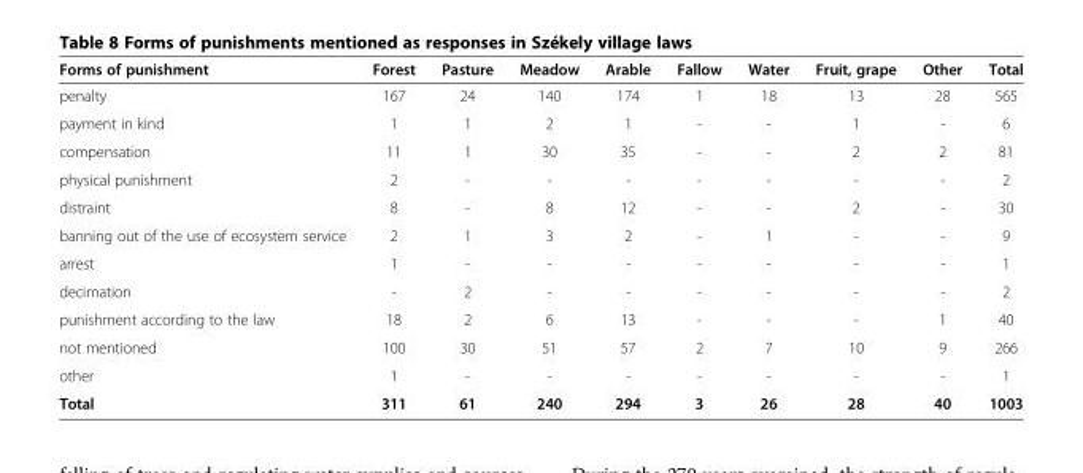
<table><thead><tr><td>Forms of punishment</td><td>Forest</td><td>Pasture</td><td>Meadow</td><td>Arable</td><td>Fallow</td><td>Water</td><td>Fruit, grape</td><td>Other</td><td>Total</td></tr></thead><tbody><tr><td>penalty</td><td>167</td><td>24</td><td>140</td><td>174</td><td>1</td><td>18</td><td>13</td><td>28</td><td>565</td></tr><tr><td>payment in kind</td><td>1</td><td>1</td><td>2</td><td>1</td><td>-</td><td>-</td><td>1</td><td>-</td><td>6</td></tr><tr><td>compensation</td><td>11</td><td>1</td><td>30</td><td>35</td><td>-</td><td>-</td><td>2</td><td>2</td><td>81</td></tr><tr><td>physical punishment</td><td>2</td><td>-</td><td>-</td><td>-</td><td>-</td><td>-</td><td>-</td><td>-</td><td>2</td></tr><tr><td>distraint</td><td>8</td><td>-</td><td>8</td><td>12</td><td>-</td><td>-</td><td>2</td><td>-</td><td>30</td></tr><tr><td>banning out of the use of ecosystem service</td><td>2</td><td>1</td><td>3</td><td>2</td><td>-</td><td>1</td><td>-</td><td>-</td><td>9</td></tr><tr><td>arrest</td><td>1</td><td>-</td><td>-</td><td>-</td><td>-</td><td>-</td><td>-</td><td>-</td><td>1</td></tr><tr><td>decimation</td><td>-</td><td>2</td><td>-</td><td>-</td><td>-</td><td>-</td><td>-</td><td>-</td><td>2</td></tr><tr><td>punishment according to the law</td><td>18</td><td>2</td><td>6</td><td>13</td><td>-</td><td>-</td><td>-</td><td>1</td><td>40</td></tr><tr><td>not mentioned</td><td>100</td><td>30</td><td>51</td><td>57</td><td>2</td><td>7</td><td>10</td><td>9</td><td>266</td></tr><tr><td>other</td><td>1</td><td>-</td><td>-</td><td>-</td><td>-</td><td>-</td><td>-</td><td>-</td><td>1</td></tr><tr><td>Total</td><td>311</td><td>61</td><td>240</td><td>294</td><td>3</td><td>26</td><td>28</td><td>40</td><td>1003</td></tr></tbody></table>